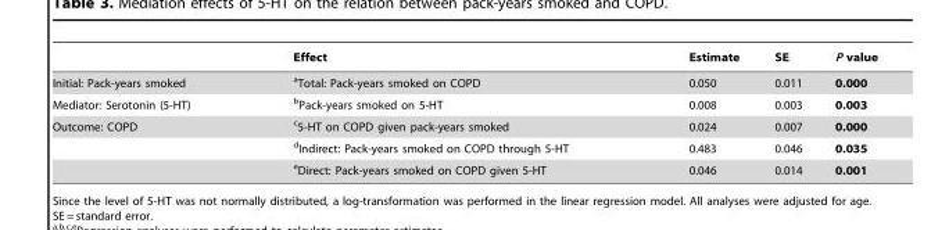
<table><thead><tr><td></td><td>Effect</td><td>Estimate</td><td>SE</td><td>P value</td></tr></thead><tbody><tr><td>Initial: Pack-years smoked</td><td>aTotal: Pack-years smoked on COPD</td><td>0.050</td><td>0.011</td><td>0.000</td></tr><tr><td>Mediator: Serotonin (5-HT)</td><td>bPack-years smoked on 5-HT</td><td>0.008</td><td>0.003</td><td>0.003</td></tr><tr><td rowspan="3">Outcome: COPD</td><td>c5-HT on COPD given pack-years smoked</td><td>0.024</td><td>0.007</td><td>0.000</td></tr><tr><td>dIndirect: Pack-years smoked on COPD through 5-HT</td><td>0.483</td><td>0.046</td><td>0.035</td></tr><tr><td>eDirect: Pack-years smoked on COPD given 5-HT</td><td>0.046</td><td>0.014</td><td>0.001</td></tr></tbody></table>